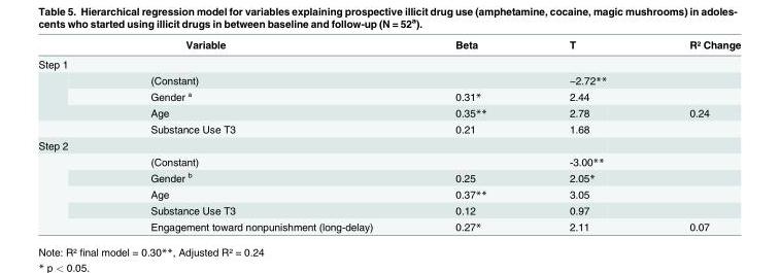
<table><thead><tr><td colspan="2">Variable</td><td rowspan="2">Beta</td><td rowspan="2">T</td><td rowspan="2">R² Change</td></tr><tr><td>Step 1</td><td></td></tr></thead><tbody><tr><td rowspan="2"></td><td>(Constant)</td><td></td><td>−2.72**</td><td></td></tr><tr><td>Gender ª</td><td>0.31*</td><td>2.44</td><td></td></tr><tr><td></td><td>Age</td><td>0.35**</td><td>2.78</td><td>0.24</td></tr><tr><td></td><td>Substance Use T3</td><td>0.21</td><td>1.68</td><td></td></tr><tr><td colspan="5">Step 2</td></tr><tr><td rowspan="4"></td><td>(Constant)</td><td></td><td>-3.00**</td><td></td></tr><tr><td>Gender <sup>b</sup></td><td>0.25</td><td>2.05*</td><td></td></tr><tr><td>Age</td><td>0.37**</td><td>3.05</td><td></td></tr><tr><td>Substance Use T3</td><td>0.12</td><td>0.97</td><td></td></tr><tr><td></td><td>Engagement toward nonpunishment (long-delay)</td><td>0.27*</td><td>2.11</td><td>0.07</td></tr></tbody></table>